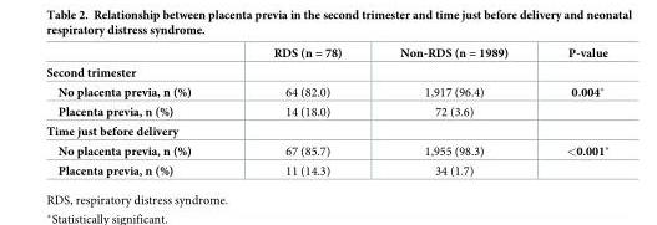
<table><thead><tr><td></td><td>RDS (n = 78)</td><td>Non-RDS (n = 1989)</td><td>P-value</td></tr></thead><tbody><tr><td colspan="4">Second trimester</td></tr><tr><td>No placenta previa, n (%)</td><td>64 (82.0)</td><td>1,917 (96.4)</td><td>0.004*</td></tr><tr><td>Placenta previa, n (%)</td><td>14 (18.0)</td><td>72 (3.6)</td><td></td></tr><tr><td colspan="4">Time just before delivery</td></tr><tr><td>No placenta previa, n (%)</td><td>67 (85.7)</td><td>1,955 (98.3)</td><td>&lt;0.001*</td></tr><tr><td>Placenta previa, n (%)</td><td>11 (14.3)</td><td>34 (1.7)</td><td></td></tr></tbody></table>